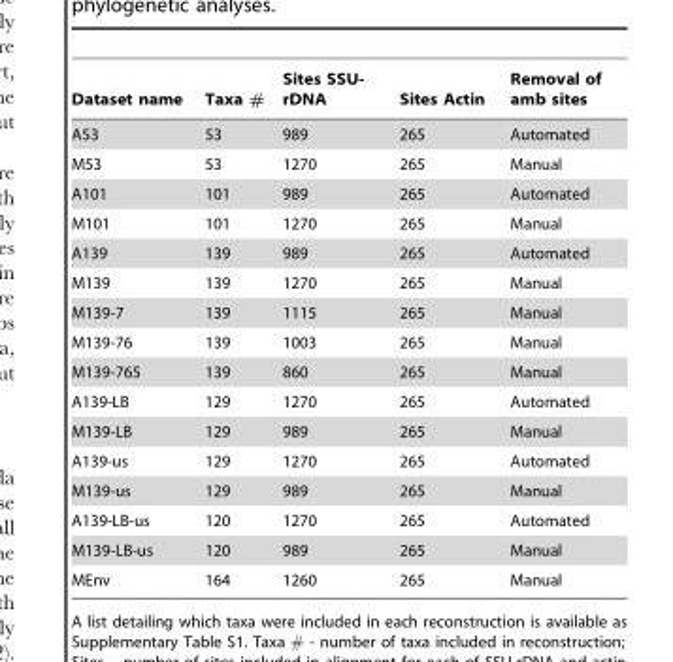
<table><thead><tr><td>Dataset name</td><td>Taxa #</td><td>Sites SSU- rDNA</td><td>Sites Actin</td><td>Removal of amb sites</td></tr></thead><tbody><tr><td>A53</td><td>53</td><td>989</td><td>265</td><td>Automated</td></tr><tr><td>M53</td><td>53</td><td>1270</td><td>265</td><td>Manual</td></tr><tr><td>A101</td><td>101</td><td>989</td><td>265</td><td>Automated</td></tr><tr><td>M101</td><td>101</td><td>1270</td><td>265</td><td>Manual</td></tr><tr><td>A139</td><td>139</td><td>989</td><td>265</td><td>Automated</td></tr><tr><td>M139</td><td>139</td><td>1270</td><td>265</td><td>Manual</td></tr><tr><td>M139-7</td><td>139</td><td>1115</td><td>265</td><td>Manual</td></tr><tr><td>M139-76</td><td>139</td><td>1003</td><td>265</td><td>Manual</td></tr><tr><td>M139-765</td><td>139</td><td>860</td><td>265</td><td>Manual</td></tr><tr><td>A139-LB</td><td>129</td><td>1270</td><td>265</td><td>Automated</td></tr><tr><td>M139-LB</td><td>129</td><td>989</td><td>265</td><td>Manual</td></tr><tr><td>A139-us</td><td>129</td><td>1270</td><td>265</td><td>Automated</td></tr><tr><td>M139-us</td><td>129</td><td>989</td><td>265</td><td>Manual</td></tr><tr><td>A139-LB-us</td><td>120</td><td>1270</td><td>265</td><td>Automated</td></tr><tr><td>M139-LB-us</td><td>120</td><td>989</td><td>265</td><td>Manual</td></tr><tr><td>MEnv</td><td>164</td><td>1260</td><td>265</td><td>Manual</td></tr></tbody></table>